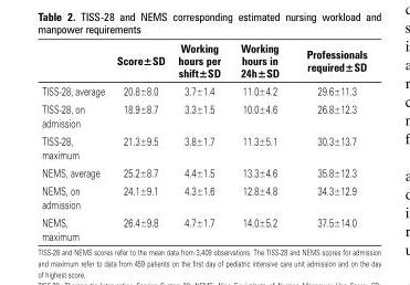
<table><thead><tr><td></td><td>Score±SD</td><td>Working hours per shift±SD</td><td>Working hours in 24h±SD</td><td>Professionals required±SD</td></tr></thead><tbody><tr><td>TISS-28, average</td><td>20.8±8.0</td><td>3.7±1.4</td><td>11.0±4.2</td><td>29.6±11.3</td></tr><tr><td>TISS-28, on admission</td><td>18.9±8.7</td><td>3.3±1.5</td><td>10.0±4.6</td><td>26.8±12.3</td></tr><tr><td>TISS-28, maximum</td><td>21.3±9.5</td><td>3.8±1.7</td><td>11.3±5.1</td><td>30.3±13.7</td></tr><tr><td>NEMS, average</td><td>25.2±8.7</td><td>4.4±1.5</td><td>13.3±4.6</td><td>35.8±12.3</td></tr><tr><td>NEMS, on admission</td><td>24.1±9.1</td><td>4.3±1.6</td><td>12.8±4.8</td><td>34.3±12.9</td></tr><tr><td>NEMS, maximum</td><td>26.4±9.8</td><td>4.7±1.7</td><td>14.0±5.2</td><td>37.5±14.0</td></tr></tbody></table>